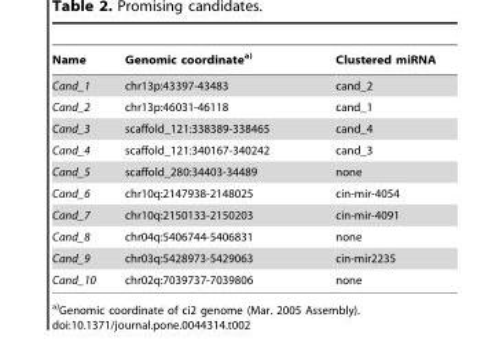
<table><thead><tr><td>Name</td><td>Genomic coordinatea)</td><td>Clustered miRNA</td></tr></thead><tbody><tr><td>Cand_1</td><td>chr13p:43397-43483</td><td>cand_2</td></tr><tr><td>Cand_2</td><td>chr13p:46031-46118</td><td>cand_1</td></tr><tr><td>Cand_3</td><td>scaffold_121:338389-338465</td><td>cand_4</td></tr><tr><td>Cand_4</td><td>scaffold_121:340167-340242</td><td>cand_3</td></tr><tr><td>Cand_5</td><td>scaffold_280:34403-34489</td><td>none</td></tr><tr><td>Cand_6</td><td>chr10q:2147938-2148025</td><td>cin-mir-4054</td></tr><tr><td>Cand_7</td><td>chr10q:2150133-2150203</td><td>cin-mir-4091</td></tr><tr><td>Cand_8</td><td>chr04q:5406744-5406831</td><td>none</td></tr><tr><td>Cand_9</td><td>chr03q:5428973-5429063</td><td>cin-mir2235</td></tr><tr><td>Cand_10</td><td>chr02q:7039737-7039806</td><td>none</td></tr></tbody></table>